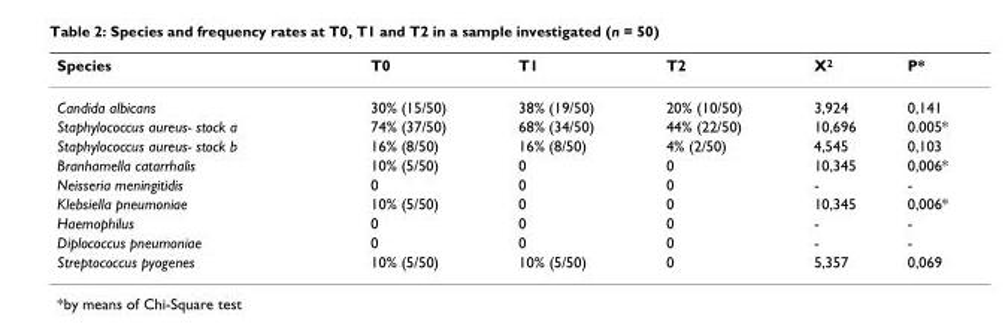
<table><thead><tr><td>Species</td><td>T0</td><td>T1</td><td>T2</td><td>X<sup>2</sup></td><td>P*</td></tr></thead><tbody><tr><td>Candida albicans</td><td>30% (15/50)</td><td>38% (19/50)</td><td>20% (10/50)</td><td>3,924</td><td>0,141</td></tr><tr><td>Staphylococcus aureus- stock a</td><td>74% (37/50)</td><td>68% (34/50)</td><td>44% (22/50)</td><td>10,696</td><td>0.005*</td></tr><tr><td>Staphylococcus aureus- stock b</td><td>16% (8/50)</td><td>16% (8/50)</td><td>4% (2/50)</td><td>4,545</td><td>0,103</td></tr><tr><td>Branhamella catarrhalis</td><td>10% (5/50)</td><td>0</td><td>0</td><td>10,345</td><td>0,006*</td></tr><tr><td>Neisseria meningitidis</td><td>0</td><td>0</td><td>0</td><td>-</td><td>-</td></tr><tr><td>Klebsiella pneumoniae</td><td>10% (5/50)</td><td>0</td><td>0</td><td>10,345</td><td>0,006*</td></tr><tr><td>Haemophilus</td><td>0</td><td>0</td><td>0</td><td>-</td><td>-</td></tr><tr><td>Diplococcus pneumoniae</td><td>0</td><td>0</td><td>0</td><td>-</td><td>-</td></tr><tr><td>Streptococcus pyogenes</td><td>10% (5/50)</td><td>10% (5/50)</td><td>0</td><td>5,357</td><td>0,069</td></tr></tbody></table>